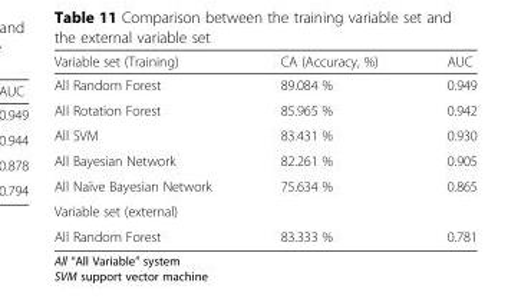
<table><thead><tr><td>Variable set (Training)</td><td>CA (Accuracy, %)</td><td>AUC</td></tr></thead><tbody><tr><td>All Random Forest</td><td>89.084 %</td><td>0.949</td></tr><tr><td>All Rotation Forest</td><td>85.965 %</td><td>0.942</td></tr><tr><td>All SVM</td><td>83.431 %</td><td>0.930</td></tr><tr><td>All Bayesian Network</td><td>82.261 %</td><td>0.905</td></tr><tr><td>All Naïve Bayesian Network</td><td>75.634 %</td><td>0.865</td></tr><tr><td colspan="3">Variable set (external)</td></tr><tr><td>All Random Forest</td><td>83.333 %</td><td>0.781</td></tr></tbody></table>